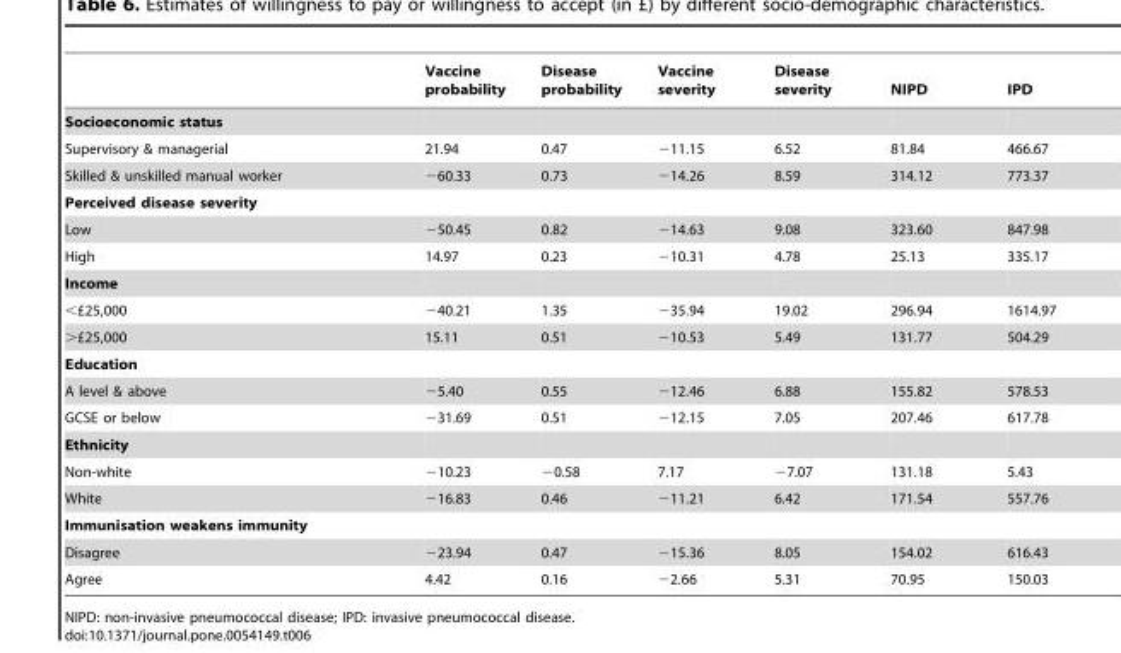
<table><thead><tr><td></td><td>Vaccine probability</td><td>Disease probability</td><td>Vaccine severity</td><td>Disease severity</td><td>NIPD</td><td>IPD</td></tr></thead><tbody><tr><td colspan="7">Socioeconomic status</td></tr><tr><td>Supervisory &amp; managerial</td><td>21.94</td><td>0.47</td><td>−11.15</td><td>6.52</td><td>81.84</td><td>466.67</td></tr><tr><td>Skilled &amp; unskilled manual worker</td><td>−60.33</td><td>0.73</td><td>−14.26</td><td>8.59</td><td>314.12</td><td>773.37</td></tr><tr><td colspan="7">Perceived disease severity</td></tr><tr><td>Low</td><td>−50.45</td><td>0.82</td><td>−14.63</td><td>9.08</td><td>323.60</td><td>847.98</td></tr><tr><td>High</td><td>14.97</td><td>0.23</td><td>−10.31</td><td>4.78</td><td>25.13</td><td>335.17</td></tr><tr><td colspan="7">Income</td></tr><tr><td>&lt;£25,000</td><td>−40.21</td><td>1.35</td><td>−35.94</td><td>19.02</td><td>296.94</td><td>1614.97</td></tr><tr><td>&gt;£25,000</td><td>15.11</td><td>0.51</td><td>−10.53</td><td>5.49</td><td>131.77</td><td>504.29</td></tr><tr><td colspan="7">Education</td></tr><tr><td>A level &amp; above</td><td>−5.40</td><td>0.55</td><td>−12.46</td><td>6.88</td><td>155.82</td><td>578.53</td></tr><tr><td>GCSE or below</td><td>−31.69</td><td>0.51</td><td>−12.15</td><td>7.05</td><td>207.46</td><td>617.78</td></tr><tr><td colspan="7">Ethnicity</td></tr><tr><td>Non-white</td><td>−10.23</td><td>−0.58</td><td>7.17</td><td>−7.07</td><td>131.18</td><td>5.43</td></tr><tr><td>White</td><td>−16.83</td><td>0.46</td><td>−11.21</td><td>6.42</td><td>171.54</td><td>557.76</td></tr><tr><td colspan="7">Immunisation weakens immunity</td></tr><tr><td>Disagree</td><td>−23.94</td><td>0.47</td><td>−15.36</td><td>8.05</td><td>154.02</td><td>616.43</td></tr><tr><td>Agree</td><td>4.42</td><td>0.16</td><td>−2.66</td><td>5.31</td><td>70.95</td><td>150.03</td></tr></tbody></table>